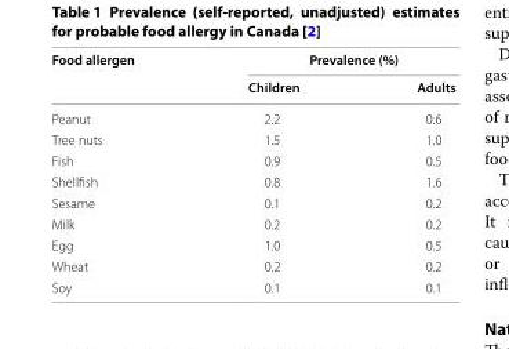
<table><thead><tr><td rowspan="2">Food allergen</td><td colspan="2">Prevalence (%)</td></tr><tr><td>Children</td><td>Adults</td></tr></thead><tbody><tr><td>Peanut</td><td>2.2</td><td>0.6</td></tr><tr><td>Tree nuts</td><td>1.5</td><td>1.0</td></tr><tr><td>Fish</td><td>0.9</td><td>0.5</td></tr><tr><td>Shellfish</td><td>0.8</td><td>1.6</td></tr><tr><td>Sesame</td><td>0.1</td><td>0.2</td></tr><tr><td>Milk</td><td>0.2</td><td>0.2</td></tr><tr><td>Egg</td><td>1.0</td><td>0.5</td></tr><tr><td>Wheat</td><td>0.2</td><td>0.2</td></tr><tr><td>Soy</td><td>0.1</td><td>0.1</td></tr></tbody></table>